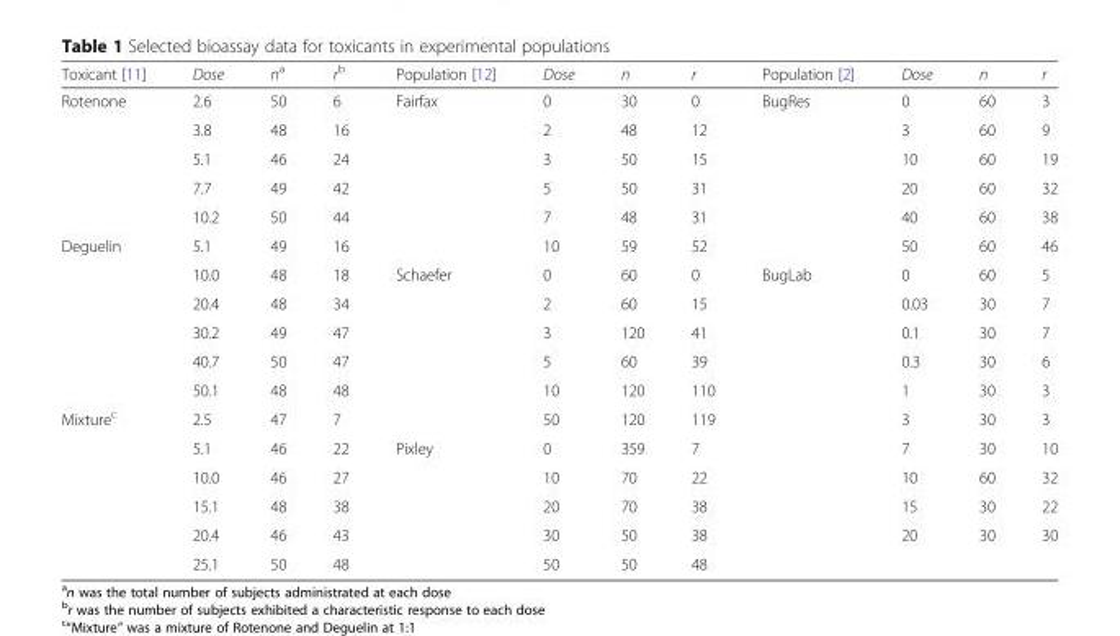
<table><thead><tr><td>Toxicant [11]</td><td>Dose</td><td>n<sup>a</sup></td><td>r<sup>b</sup></td><td>Population [12]</td><td>Dose</td><td>n</td><td>r</td><td>Population [2]</td><td>Dose</td><td>n</td><td>r</td></tr></thead><tbody><tr><td rowspan="5">Rotenone</td><td>2.6</td><td>50</td><td>6</td><td rowspan="6">Fairfax</td><td>0</td><td>30</td><td>0</td><td rowspan="6">BugRes</td><td>0</td><td>60</td><td>3</td></tr><tr><td>3.8</td><td>48</td><td>16</td><td>2</td><td>48</td><td>12</td><td>3</td><td>60</td><td>9</td></tr><tr><td>5.1</td><td>46</td><td>24</td><td>3</td><td>50</td><td>15</td><td>10</td><td>60</td><td>19</td></tr><tr><td>7.7</td><td>49</td><td>42</td><td>5</td><td>50</td><td>31</td><td>20</td><td>60</td><td>32</td></tr><tr><td>10.2</td><td>50</td><td>44</td><td>7</td><td>48</td><td>31</td><td>40</td><td>60</td><td>38</td></tr><tr><td rowspan="6">Deguelin</td><td>5.1</td><td>49</td><td>16</td><td>10</td><td>59</td><td>52</td><td>50</td><td>60</td><td>46</td></tr><tr><td>10.0</td><td>48</td><td>18</td><td rowspan="6">Schaefer</td><td>0</td><td>60</td><td>0</td><td rowspan="11">BugLab</td><td>0</td><td>60</td><td>5</td></tr><tr><td>20.4</td><td>48</td><td>34</td><td>2</td><td>60</td><td>15</td><td>0.03</td><td>30</td><td>7</td></tr><tr><td>30.2</td><td>49</td><td>47</td><td>3</td><td>120</td><td>41</td><td>0.1</td><td>30</td><td>7</td></tr><tr><td>40.7</td><td>50</td><td>47</td><td>5</td><td>60</td><td>39</td><td>0.3</td><td>30</td><td>6</td></tr><tr><td>50.1</td><td>48</td><td>48</td><td>10</td><td>120</td><td>110</td><td>1</td><td>30</td><td>3</td></tr><tr><td rowspan="6">Mixture<sup>c</sup></td><td>2.5</td><td>47</td><td>7</td><td>50</td><td>120</td><td>119</td><td>3</td><td>30</td><td>3</td></tr><tr><td>5.1</td><td>46</td><td>22</td><td rowspan="5">Pixley</td><td>0</td><td>359</td><td>7</td><td>7</td><td>30</td><td>10</td></tr><tr><td>10.0</td><td>46</td><td>27</td><td>10</td><td>70</td><td>22</td><td>10</td><td>60</td><td>32</td></tr><tr><td>15.1</td><td>48</td><td>38</td><td>20</td><td>70</td><td>38</td><td>15</td><td>30</td><td>22</td></tr><tr><td>20.4</td><td>46</td><td>43</td><td>30</td><td>50</td><td>38</td><td>20</td><td>30</td><td>30</td></tr><tr><td>25.1</td><td>50</td><td>48</td><td>50</td><td>50</td><td>48</td><td></td><td></td><td></td></tr></tbody></table>